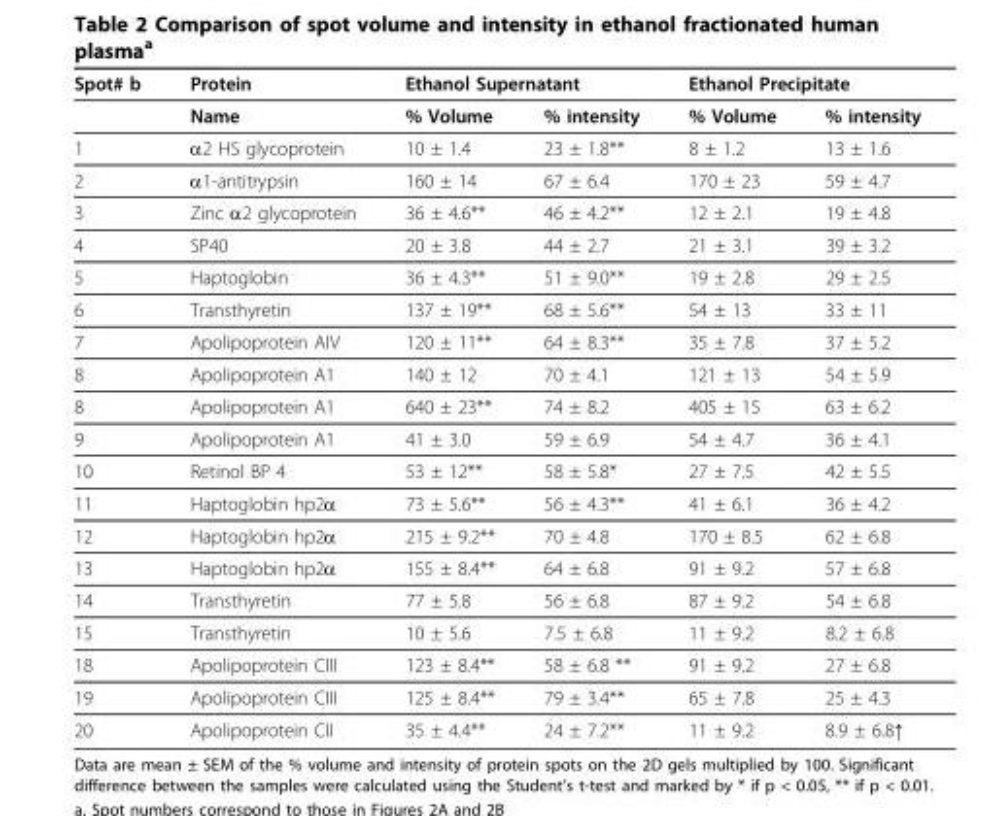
<table><thead><tr><td rowspan="2">Spot# b</td><td rowspan="2">Protein Name</td><td colspan="2">Ethanol Supernatant</td><td colspan="2">Ethanol Precipitate</td></tr><tr><td>% Volume</td><td>% intensity</td><td>% Volume</td><td>% intensity</td></tr></thead><tbody><tr><td>1</td><td>α2 HS glycoprotein</td><td>10 ± 1.4</td><td>23 ± 1.8**</td><td>8 ± 1.2</td><td>13 ± 1.6</td></tr><tr><td>2</td><td>α1-antitrypsin</td><td>160 ± 14</td><td>67 ± 6.4</td><td>170 ± 23</td><td>59 ± 4.7</td></tr><tr><td>3</td><td>Zinc α2 glycoprotein</td><td>36 ± 4.6**</td><td>46 ± 4.2**</td><td>12 ± 2.1</td><td>19 ± 4.8</td></tr><tr><td>4</td><td>SP40</td><td>20 ± 3.8</td><td>44 ± 2.7</td><td>21 ± 3.1</td><td>39 ± 3.2</td></tr><tr><td>5</td><td>Haptoglobin</td><td>36 ± 4.3**</td><td>51 ± 9.0**</td><td>19 ± 2.8</td><td>29 ± 2.5</td></tr><tr><td>6</td><td>Transthyretin</td><td>137 ± 19**</td><td>68 ± 5.6**</td><td>54 ± 13</td><td>33 ± 11</td></tr><tr><td>7</td><td>Apolipoprotein AIV</td><td>120 ± 11**</td><td>64 ± 8.3**</td><td>35 ± 7.8</td><td>37 ± 5.2</td></tr><tr><td>8</td><td>Apolipoprotein A1</td><td>140 ± 12</td><td>70 ± 4.1</td><td>121 ± 13</td><td>54 ± 5.9</td></tr><tr><td>8</td><td>Apolipoprotein A1</td><td>640 ± 23**</td><td>74 ± 8.2</td><td>405 ± 15</td><td>63 ± 6.2</td></tr><tr><td>9</td><td>Apolipoprotein A1</td><td>41 ± 3.0</td><td>59 ± 6.9</td><td>54 ± 4.7</td><td>36 ± 4.1</td></tr><tr><td>10</td><td>Retinol BP 4</td><td>53 ± 12**</td><td>58 ± 5.8*</td><td>27 ± 7.5</td><td>42 ± 5.5</td></tr><tr><td>11</td><td>Haptoglobin hp2α</td><td>73 ± 5.6**</td><td>56 ± 4.3**</td><td>41 ± 6.1</td><td>36 ± 4.2</td></tr><tr><td>12</td><td>Haptoglobin hp2α</td><td>215 ± 9.2**</td><td>70 ± 4.8</td><td>170 ± 8.5</td><td>62 ± 6.8</td></tr><tr><td>13</td><td>Haptoglobin hp2α</td><td>155 ± 8.4**</td><td>64 ± 6.8</td><td>91 ± 9.2</td><td>57 ± 6.8</td></tr><tr><td>14</td><td>Transthyretin</td><td>77 ± 5.8</td><td>56 ± 6.8</td><td>87 ± 9.2</td><td>54 ± 6.8</td></tr><tr><td>15</td><td>Transthyretin</td><td>10 ± 5.6</td><td>7.5 ± 6.8</td><td>11 ± 9.2</td><td>8.2 ± 6.8</td></tr><tr><td>18</td><td>Apolipoprotein CIII</td><td>123 ± 8.4**</td><td>58 ± 6.8 **</td><td>91 ± 9.2</td><td>27 ± 6.8</td></tr><tr><td>19</td><td>Apolipoprotein CIII</td><td>125 ± 8.4**</td><td>79 ± 3.4**</td><td>65 ± 7.8</td><td>25 ± 4.3</td></tr><tr><td>20</td><td>Apolipoprotein CII</td><td>35 ± 4.4**</td><td>24 ± 7.2**</td><td>11 ± 9.2</td><td>8.9 ± 6.8↑</td></tr></tbody></table>